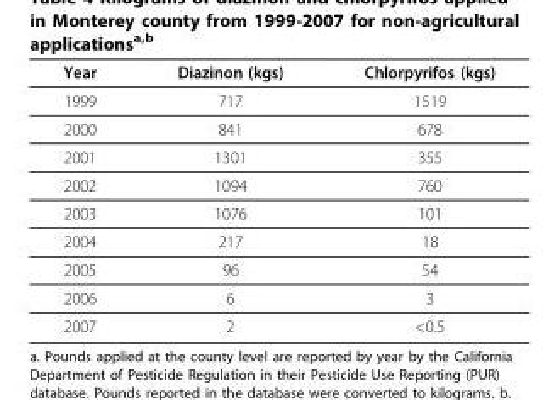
<table><thead><tr><td>Year</td><td>Diazinon (kgs)</td><td>Chlorpyrifos (kgs)</td></tr></thead><tbody><tr><td>1999</td><td>717</td><td>1519</td></tr><tr><td>2000</td><td>841</td><td>678</td></tr><tr><td>2001</td><td>1301</td><td>355</td></tr><tr><td>2002</td><td>1094</td><td>760</td></tr><tr><td>2003</td><td>1076</td><td>101</td></tr><tr><td>2004</td><td>217</td><td>18</td></tr><tr><td>2005</td><td>96</td><td>54</td></tr><tr><td>2006</td><td>6</td><td>3</td></tr><tr><td>2007</td><td>2</td><td>&lt;0.5</td></tr></tbody></table>